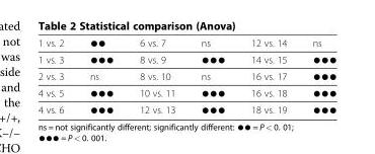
<table><tbody><tr><td>1 vs. 2</td><td>●●</td><td>6 vs. 7</td><td>ns</td><td>12 vs. 14</td><td>ns</td></tr><tr><td>1 vs. 3</td><td>●●●</td><td>8 vs. 9</td><td>●●●</td><td>14 vs. 15</td><td>●●●</td></tr><tr><td>2 vs. 3</td><td>ns</td><td>8 vs. 10</td><td>ns</td><td>16 vs. 17</td><td>●●●</td></tr><tr><td>4 vs. 5</td><td>●●●</td><td>10 vs. 11</td><td>●●●</td><td>16 vs. 18</td><td>●●●</td></tr><tr><td>4 vs. 6</td><td>●●●</td><td>12 vs. 13</td><td>●●●</td><td>18 vs. 19</td><td>●●●</td></tr></tbody></table>